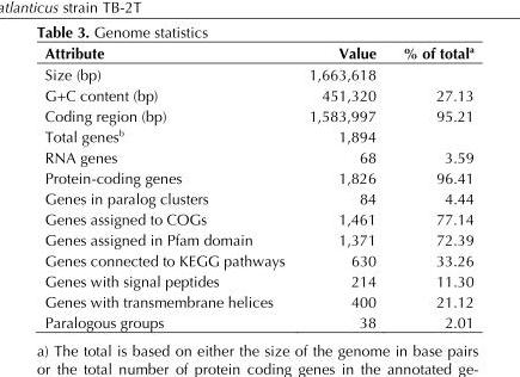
<table><thead><tr><td>Attribute</td><td>Value</td><td>% of total<sup>a</sup></td></tr></thead><tbody><tr><td>Size (bp)</td><td>1,663,618</td><td></td></tr><tr><td>G+C content (bp)</td><td>451,320</td><td>27.13</td></tr><tr><td>Coding region (bp)</td><td>1,583,997</td><td>95.21</td></tr><tr><td>Total genes<sup>b</sup></td><td>1,894</td><td></td></tr><tr><td>RNA genes</td><td>68</td><td>3.59</td></tr><tr><td>Protein-coding genes</td><td>1,826</td><td>96.41</td></tr><tr><td>Genes in paralog clusters</td><td>84</td><td>4.44</td></tr><tr><td>Genes assigned to COGs</td><td>1,461</td><td>77.14</td></tr><tr><td>Genes assigned in Pfam domain</td><td>1,371</td><td>72.39</td></tr><tr><td>Genes connected to KEGG pathways</td><td>630</td><td>33.26</td></tr><tr><td>Genes with signal peptides</td><td>214</td><td>11.30</td></tr><tr><td>Genes with transmembrane helices</td><td>400</td><td>21.12</td></tr><tr><td>Paralogous groups</td><td>38</td><td>2.01</td></tr></tbody></table>